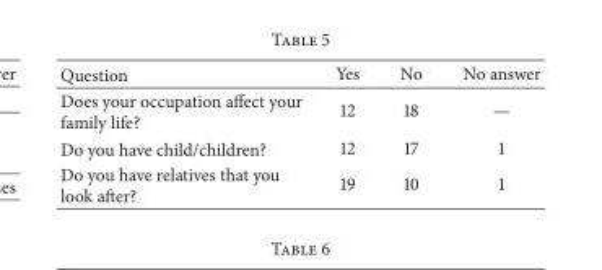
<table><thead><tr><td>Question</td><td>Yes</td><td>No</td><td>No answer</td></tr></thead><tbody><tr><td>Does your occupation affect your family life?</td><td>12</td><td>18</td><td>—</td></tr><tr><td>Do you have child/children?</td><td>12</td><td>17</td><td>1</td></tr><tr><td>Do you have relatives that you look after?</td><td>19</td><td>10</td><td>1</td></tr></tbody></table>